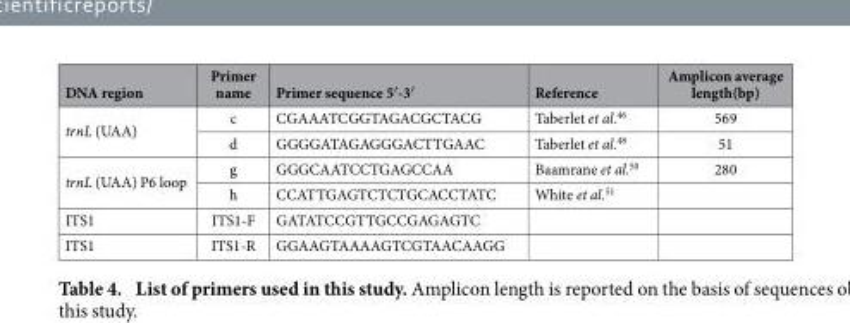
<table><thead><tr><td>DNA region</td><td>Primer name</td><td>Primer sequence 5′ -3′</td><td>Reference</td><td>Amplicon average length(bp)</td></tr></thead><tbody><tr><td rowspan="2">trnL (UAA)</td><td>c</td><td>CGAAATCGGTAGACGCTACG</td><td>Taberlet et al.<sup>46</sup></td><td>569</td></tr><tr><td>d</td><td>GGGGATAGAGGGACTTGAAC</td><td>Taberlet et al.<sup>48</sup></td><td>51</td></tr><tr><td rowspan="2">trnL (UAA) P6 loop</td><td>g</td><td>GGGCAATCCTGAGCCAA</td><td>Baamrane et al.<sup>50</sup></td><td>280</td></tr><tr><td>h</td><td>CCATTGAGTCTCTGCACCTATC</td><td>White et al.<sup>51</sup></td><td></td></tr><tr><td>ITS1</td><td>ITS1-F</td><td>GATATCCGTTGCCGAGAGTC</td><td></td><td></td></tr><tr><td>ITS1</td><td>ITS1-R</td><td>GGAAGTAAAAGTCGTAACAAGG</td><td></td><td></td></tr></tbody></table>